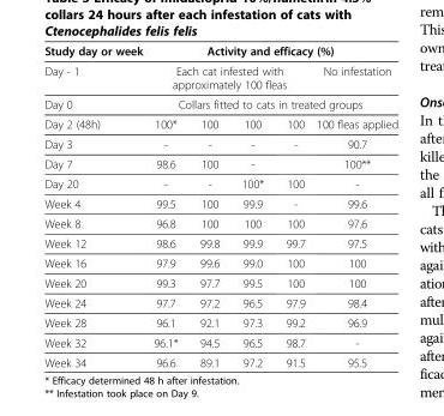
<table><thead><tr><td rowspan="4">Study day or week Day - 1 Day 0 Day 2 (48h)</td><td colspan="5">Activity and efficacy (%)</td></tr><tr><td colspan="4">Each cat infested with approximately 100 fleas</td><td>No infestation</td></tr><tr><td colspan="5">Collars fitted to cats in treated groups</td></tr><tr><td>100*</td><td>100</td><td>100</td><td>100</td><td>100 fleas applied</td></tr></thead><tbody><tr><td>Day 3</td><td>-</td><td>-</td><td>-</td><td>-</td><td>90.7</td></tr><tr><td>Day 7</td><td>98.6</td><td>100</td><td>-</td><td></td><td>100**</td></tr><tr><td>Day 20</td><td>-</td><td>-</td><td>100*</td><td>100</td><td>-</td></tr><tr><td>Week 4</td><td>99.5</td><td>100</td><td>99.9</td><td>-</td><td>99.6</td></tr><tr><td>Week 8</td><td>96.8</td><td>100</td><td>100</td><td>100</td><td>97.6</td></tr><tr><td>Week 12</td><td>98.6</td><td>99.8</td><td>99.9</td><td>99.7</td><td>97.5</td></tr><tr><td>Week 16</td><td>97.9</td><td>99.6</td><td>99.0</td><td>100</td><td>100</td></tr><tr><td>Week 20</td><td>99.3</td><td>97.7</td><td>99.5</td><td>100</td><td>100</td></tr><tr><td>Week 24</td><td>97.7</td><td>97.2</td><td>96.5</td><td>97.9</td><td>98.4</td></tr><tr><td>Week 28</td><td>96.1</td><td>92.1</td><td>97.3</td><td>99.2</td><td>96.9</td></tr><tr><td>Week 32</td><td>96.1*</td><td>94.5</td><td>96.5</td><td>98.7</td><td>-</td></tr><tr><td>Week 34</td><td>96.6</td><td>89.1</td><td>97.2</td><td>91.5</td><td>95.5</td></tr></tbody></table>